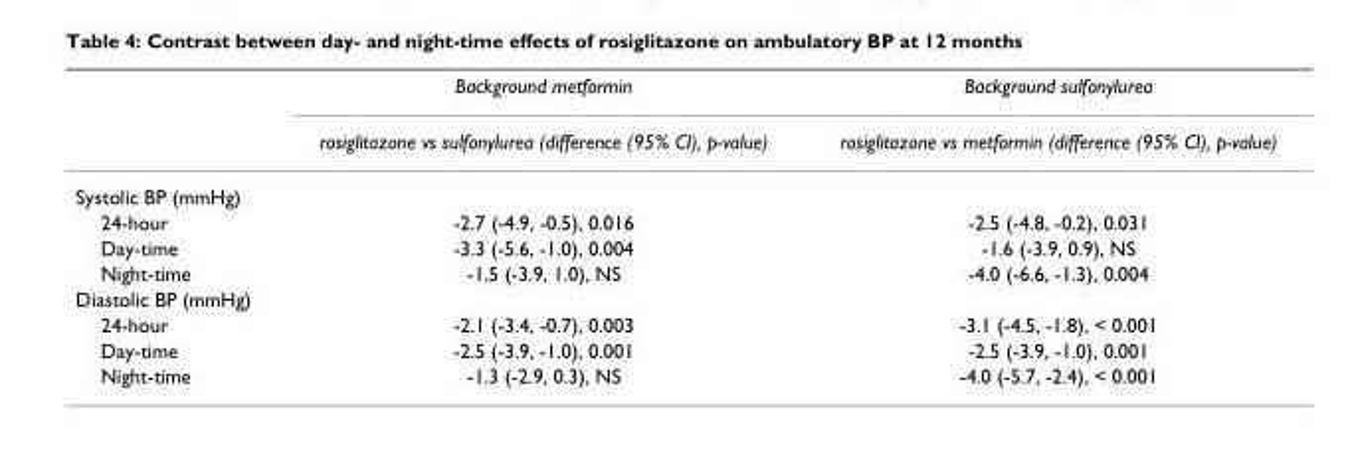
<table><thead><tr><td rowspan="2"></td><td rowspan="2">Background metformin rosiglitazone vs sulfonylurea (difference (95% CI), p-value)</td><td rowspan="2">Background sulfonylurea rosiglitazone vs metformin (difference (95% CI), p-value)</td></tr><tr></tr></thead><tbody><tr><td colspan="3">Systolic BP (mmHg)</td></tr><tr><td>24-hour</td><td>-2.7 (-4.9, -0.5), 0.016</td><td>-2.5 (-4.8, -0.2), 0.031</td></tr><tr><td>Day-time</td><td>-3.3 (-5.6, -1.0), 0.004</td><td>-1.6 (-3.9, 0.9), NS</td></tr><tr><td>Night-time</td><td>-1.5 (-3.9, 1.0), NS</td><td>-4.0 (-6.6, -1.3), 0.004</td></tr><tr><td colspan="3">Diastolic BP (mmHg)</td></tr><tr><td>24-hour</td><td>-2.1 (-3.4, -0.7), 0.003</td><td>-3.1 (-4.5, -1.8), &lt; 0.001</td></tr><tr><td>Day-time</td><td>-2.5 (-3.9, -1.0), 0.001</td><td>-2.5 (-3.9, -1.0), 0.001</td></tr><tr><td>Night-time</td><td>-1.3 (-2.9, 0.3), NS</td><td>-4.0 (-5.7, -2.4), &lt; 0.001</td></tr></tbody></table>